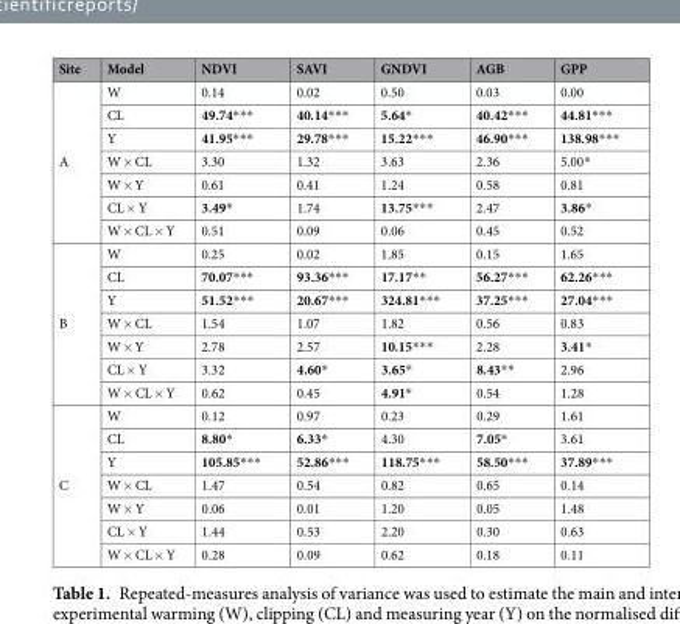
<table><thead><tr><td>Site</td><td>Model</td><td>NDVI</td><td>SAVI</td><td>GNDVI</td><td>AGB</td><td>GPP</td></tr></thead><tbody><tr><td rowspan="7">A</td><td>W</td><td>0.14</td><td>0.02</td><td>0.50</td><td>0.03</td><td>0.00</td></tr><tr><td>CL</td><td>49.74***</td><td>40.14***</td><td>5.64*</td><td>40.42***</td><td>44.81***</td></tr><tr><td>Y</td><td>41.95***</td><td>29.78***</td><td>15.22***</td><td>46.90***</td><td>138.98***</td></tr><tr><td>W × CL</td><td>3.30</td><td>1.32</td><td>3.63</td><td>2.36</td><td>5.00*</td></tr><tr><td>W × Y</td><td>0.61</td><td>0.41</td><td>1.24</td><td>0.58</td><td>0.81</td></tr><tr><td>CL × Y</td><td>3.49*</td><td>1.74</td><td>13.75***</td><td>2.47</td><td>3.86*</td></tr><tr><td>W × CL × Y</td><td>0.51</td><td>0.09</td><td>0.06</td><td>0.45</td><td>0.52</td></tr><tr><td rowspan="7">B</td><td>W</td><td>0.25</td><td>0.02</td><td>1.85</td><td>0.15</td><td>1.65</td></tr><tr><td>CL</td><td>70.07***</td><td>93.36***</td><td>17.17**</td><td>56.27***</td><td>62.26***</td></tr><tr><td>Y</td><td>51.52***</td><td>20.67***</td><td>324.81***</td><td>37.25***</td><td>27.04***</td></tr><tr><td>W × CL</td><td>1.54</td><td>1.07</td><td>1.82</td><td>0.56</td><td>0.83</td></tr><tr><td>W × Y</td><td>2.78</td><td>2.57</td><td>10.15***</td><td>2.28</td><td>3.41*</td></tr><tr><td>CL × Y</td><td>3.32</td><td>4.60*</td><td>3.65*</td><td>8.43**</td><td>2.96</td></tr><tr><td>W × CL × Y</td><td>0.62</td><td>0.45</td><td>4.91*</td><td>0.54</td><td>1.28</td></tr><tr><td rowspan="7">C</td><td>W</td><td>0.12</td><td>0.97</td><td>0.23</td><td>0.29</td><td>1.61</td></tr><tr><td>CL</td><td>8.80*</td><td>6.33*</td><td>4.30</td><td>7.05*</td><td>3.61</td></tr><tr><td>Y</td><td>105.85***</td><td>52.86***</td><td>118.75***</td><td>58.50***</td><td>37.89***</td></tr><tr><td>W × CL</td><td>1.47</td><td>0.54</td><td>0.82</td><td>0.65</td><td>0.14</td></tr><tr><td>W × Y</td><td>0.06</td><td>0.01</td><td>1.20</td><td>0.05</td><td>1.48</td></tr><tr><td>CL × Y</td><td>1.44</td><td>0.53</td><td>2.20</td><td>0.30</td><td>0.63</td></tr><tr><td>W × CL × Y</td><td>0.28</td><td>0.09</td><td>0.62</td><td>0.18</td><td>0.11</td></tr></tbody></table>